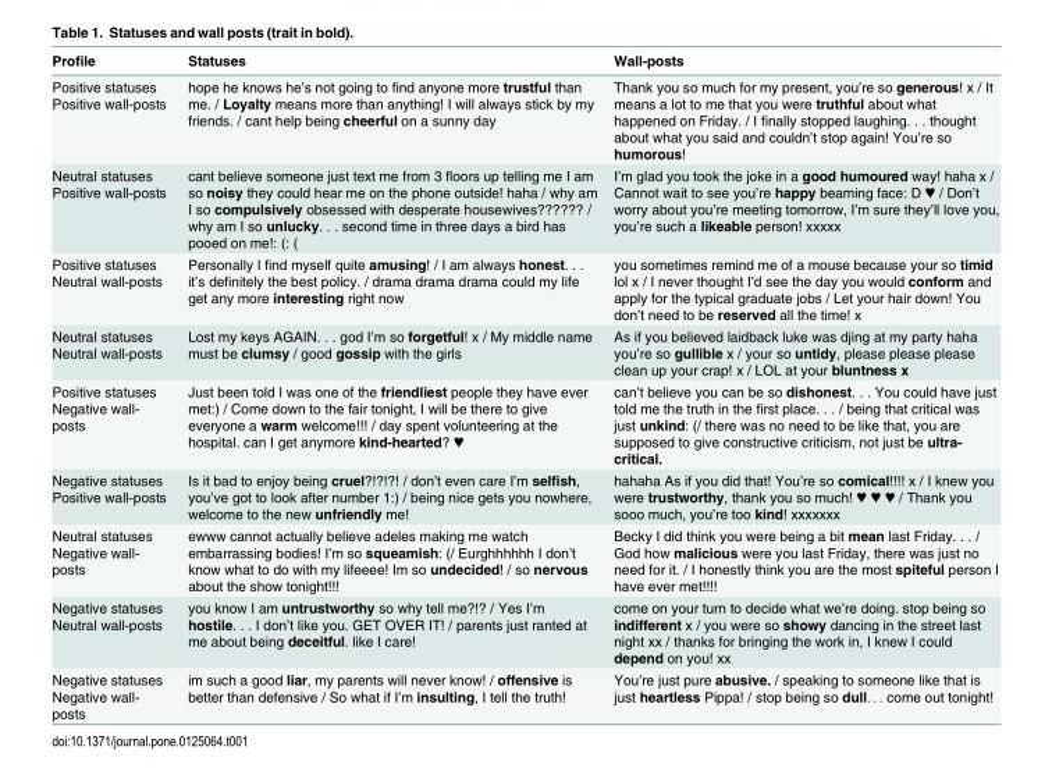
<table><thead><tr><td>Profile</td><td>Statuses</td><td>Wall-posts</td></tr></thead><tbody><tr><td>Positive statuses Positive wall-posts</td><td>hope he knows he’s not going to find anyone more trustful than me. / Loyalty means more than anything! I will always stick by my friends. / cant help being cheerful on a sunny day</td><td>Thank you so much for my present, you’re so generous! x / It means a lot to me that you were truthful about what happened on Friday. / I finally stopped laughing. . . thought about what you said and couldn’t stop again! You’re so humorous!</td></tr><tr><td>Neutral statuses Positive wall-posts</td><td>cant believe someone just text me from 3 floors up telling me I am so noisy they could hear me on the phone outside! haha / why am I so compulsively obsessed with desperate housewives?????? / why am I so unlucky. . . second time in three days a bird has pooed on me!: (: (</td><td>I’m glad you took the joke in a good humoured way! haha x / Cannot wait to see you’re happy beaming face: D ♥ / Don’t worry about you’re meeting tomorrow, I’m sure they’ll love you, you’re such a likeable person! xxxxx</td></tr><tr><td>Positive statuses Neutral wall-posts</td><td>Personally I find myself quite amusing! / I am always honest. . . it’s definitely the best policy. / drama drama drama could my life get any more interesting right now</td><td>you sometimes remind me of a mouse because your so timid lol x / I never thought I’d see the day you would conform and apply for the typical graduate jobs / Let your hair down! You don’t need to be reserved all the time! x</td></tr><tr><td>Neutral statuses Neutral wall-posts</td><td>Lost my keys AGAIN. . . god I’m so forgetful! x / My middle name must be clumsy / good gossip with the girls</td><td>As if you believed laidback luke was djing at my party haha you’re so gullible x / your so untidy, please please please clean up your crap! x / LOL at your bluntness x</td></tr><tr><td>Positive statuses Negative wall- posts</td><td>Just been told I was one of the friendliest people they have ever met:) / Come down to the fair tonight, I will be there to give everyone a warm welcome!!! / day spent volunteering at the hospital. can I get anymore kind-hearted? ♥</td><td>can’t believe you can be so dishonest. . . You could have just told me the truth in the first place. . . / being that critical was just unkind: (/ there was no need to be like that, you are supposed to give constructive criticism, not just be ultra- critical.</td></tr><tr><td>Negative statuses Positive wall-posts</td><td>Is it bad to enjoy being cruel?!?!?! / don’t even care I’m selfish, you’ve got to look after number 1:) / being nice gets you nowhere, welcome to the new unfriendly me!</td><td>hahaha As if you did that! You’re so comical!!!! x / I knew you were trustworthy, thank you so much! ♥ ♥ ♥ / Thank you sooo much, you’re too kind! xxxxxxx</td></tr><tr><td>Neutral statuses Negative wall- posts</td><td>ewww cannot actually believe adeles making me watch embarrassing bodies! I’m so squeamish: (/ Eurghhhhhh I don’t know what to do with my lifeeee! Im so undecided! / so nervous about the show tonight!!!</td><td>Becky I did think you were being a bit mean last Friday. . . / God how malicious were you last Friday, there was just no need for it. / I honestly think you are the most spiteful person I have ever met!!!!</td></tr><tr><td>Negative statuses Neutral wall-posts</td><td>you know I am untrustworthy so why tell me?!? / Yes I’m hostile. . . I don’t like you. GET OVER IT! / parents just ranted at me about being deceitful. like I care!</td><td>come on your turn to decide what we’re doing. stop being so indifferent x / you were so showy dancing in the street last night xx / thanks for bringing the work in, I knew I could depend on you! xx</td></tr><tr><td>Negative statuses Negative wall- posts</td><td>im such a good liar, my parents will never know! / offensive is better than defensive / So what if I’m insulting, I tell the truth!</td><td>You’re just pure abusive. / speaking to someone like that is just heartless Pippa! / stop being so dull. . . come out tonight!</td></tr></tbody></table>